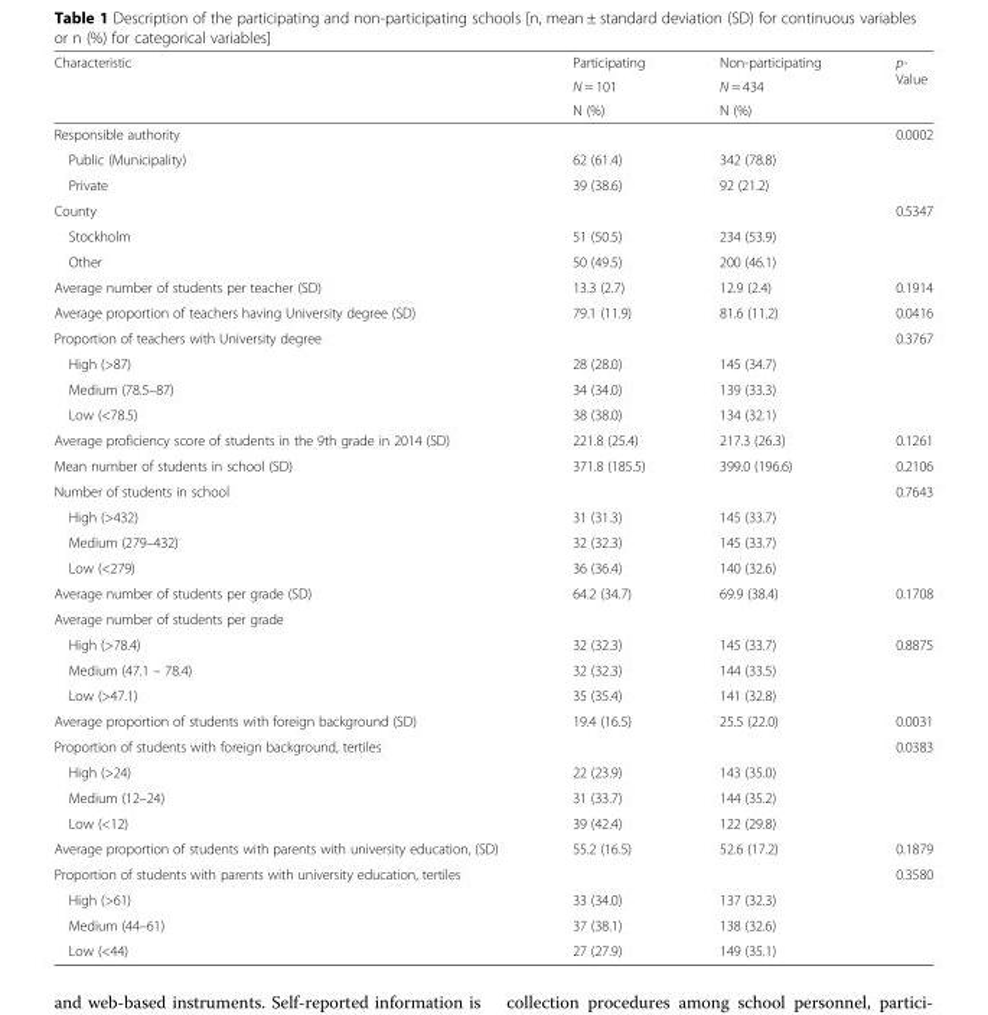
<table><thead><tr><td rowspan="3">Characteristic</td><td rowspan="3">Participating N = 101 N (%)</td><td rowspan="3">Non-participating N = 434 N (%)</td><td rowspan="3">p- Value</td></tr><tr></tr><tr></tr></thead><tbody><tr><td>Responsible authority</td><td></td><td></td><td>0.0002</td></tr><tr><td>Public (Municipality)</td><td>62 (61.4)</td><td>342 (78.8)</td><td></td></tr><tr><td>Private</td><td>39 (38.6)</td><td>92 (21.2)</td><td></td></tr><tr><td>County</td><td></td><td></td><td>0.5347</td></tr><tr><td>Stockholm</td><td>51 (50.5)</td><td>234 (53.9)</td><td></td></tr><tr><td>Other</td><td>50 (49.5)</td><td>200 (46.1)</td><td></td></tr><tr><td>Average number of students per teacher (SD)</td><td>13.3 (2.7)</td><td>12.9 (2.4)</td><td>0.1914</td></tr><tr><td>Average proportion of teachers having University degree (SD)</td><td>79.1 (11.9)</td><td>81.6 (11.2)</td><td>0.0416</td></tr><tr><td>Proportion of teachers with University degree</td><td></td><td></td><td>0.3767</td></tr><tr><td>High (&gt;87)</td><td>28 (28.0)</td><td>145 (34.7)</td><td></td></tr><tr><td>Medium (78.5–87)</td><td>34 (34.0)</td><td>139 (33.3)</td><td></td></tr><tr><td>Low (&lt;78.5)</td><td>38 (38.0)</td><td>134 (32.1)</td><td></td></tr><tr><td>Average proficiency score of students in the 9th grade in 2014 (SD)</td><td>221.8 (25.4)</td><td>217.3 (26.3)</td><td>0.1261</td></tr><tr><td>Mean number of students in school (SD)</td><td>371.8 (185.5)</td><td>399.0 (196.6)</td><td>0.2106</td></tr><tr><td>Number of students in school</td><td></td><td></td><td>0.7643</td></tr><tr><td>High (&gt;432)</td><td>31 (31.3)</td><td>145 (33.7)</td><td></td></tr><tr><td>Medium (279–432)</td><td>32 (32.3)</td><td>145 (33.7)</td><td></td></tr><tr><td>Low (&lt;279)</td><td>36 (36.4)</td><td>140 (32.6)</td><td></td></tr><tr><td>Average number of students per grade (SD)</td><td>64.2 (34.7)</td><td>69.9 (38.4)</td><td>0.1708</td></tr><tr><td colspan="4">Average number of students per grade</td></tr><tr><td>High (&gt;78.4)</td><td>32 (32.3)</td><td>145 (33.7)</td><td>0.8875</td></tr><tr><td>Medium (47.1 – 78.4)</td><td>32 (32.3)</td><td>144 (33.5)</td><td></td></tr><tr><td>Low (&gt;47.1)</td><td>35 (35.4)</td><td>141 (32.8)</td><td></td></tr><tr><td>Average proportion of students with foreign background (SD)</td><td>19.4 (16.5)</td><td>25.5 (22.0)</td><td>0.0031</td></tr><tr><td>Proportion of students with foreign background, tertiles</td><td></td><td></td><td>0.0383</td></tr><tr><td>High (&gt;24)</td><td>22 (23.9)</td><td>143 (35.0)</td><td></td></tr><tr><td>Medium (12–24)</td><td>31 (33.7)</td><td>144 (35.2)</td><td></td></tr><tr><td>Low (&lt;12)</td><td>39 (42.4)</td><td>122 (29.8)</td><td></td></tr><tr><td>Average proportion of students with parents with university education, (SD)</td><td>55.2 (16.5)</td><td>52.6 (17.2)</td><td>0.1879</td></tr><tr><td>Proportion of students with parents with university education, tertiles</td><td></td><td></td><td>0.3580</td></tr><tr><td>High (&gt;61)</td><td>33 (34.0)</td><td>137 (32.3)</td><td></td></tr><tr><td>Medium (44–61)</td><td>37 (38.1)</td><td>138 (32.6)</td><td></td></tr><tr><td>Low (&lt;44)</td><td>27 (27.9)</td><td>149 (35.1)</td><td></td></tr></tbody></table>